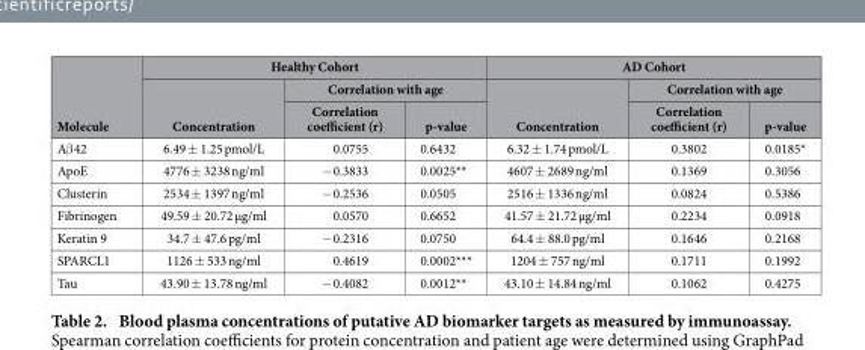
<table><thead><tr><td rowspan="3">Molecule</td><td colspan="3">Healthy Cohort</td><td colspan="3">AD Cohort</td></tr><tr><td rowspan="2">Concentration</td><td colspan="2">Correlation with age</td><td rowspan="2">Concentration</td><td colspan="2">Correlation with age</td></tr><tr><td>Correlation coefficient (r)</td><td>p-value</td><td>Correlation coefficient (r)</td><td>p-value</td></tr></thead><tbody><tr><td>Aβ 42</td><td>6.49 ± 1.25 pmol/L</td><td>0.0755</td><td>0.6432</td><td>6.32 ± 1.74 pmol/L</td><td>0.3802</td><td>0.0185*</td></tr><tr><td>ApoE</td><td>4776 ± 3238 ng/ml</td><td>− 0.3833</td><td>0.0025**</td><td>4607 ± 2689 ng/ml</td><td>0.1369</td><td>0.3056</td></tr><tr><td>Clusterin</td><td>2534 ± 1397 ng/ml</td><td>− 0.2536</td><td>0.0505</td><td>2516 ± 1336 ng/ml</td><td>0.0824</td><td>0.5386</td></tr><tr><td>Fibrinogen</td><td>49.59 ± 20.72 μg/ml</td><td>0.0570</td><td>0.6652</td><td>41.57 ± 21.72 μg/ml</td><td>0.2234</td><td>0.0918</td></tr><tr><td>Keratin 9</td><td>34.7 ± 47.6 pg/ml</td><td>− 0.2316</td><td>0.0750</td><td>64.4 ± 88.0 pg/ml</td><td>0.1646</td><td>0.2168</td></tr><tr><td>SPARCL1</td><td>1126 ± 533 ng/ml</td><td>0.4619</td><td>0.0002***</td><td>1204 ± 757 ng/ml</td><td>0.1711</td><td>0.1992</td></tr><tr><td>Tau</td><td>43.90 ± 13.78 ng/ml</td><td>− 0.4082</td><td>0.0012**</td><td>43.10 ± 14.84 ng/ml</td><td>0.1062</td><td>0.4275</td></tr></tbody></table>